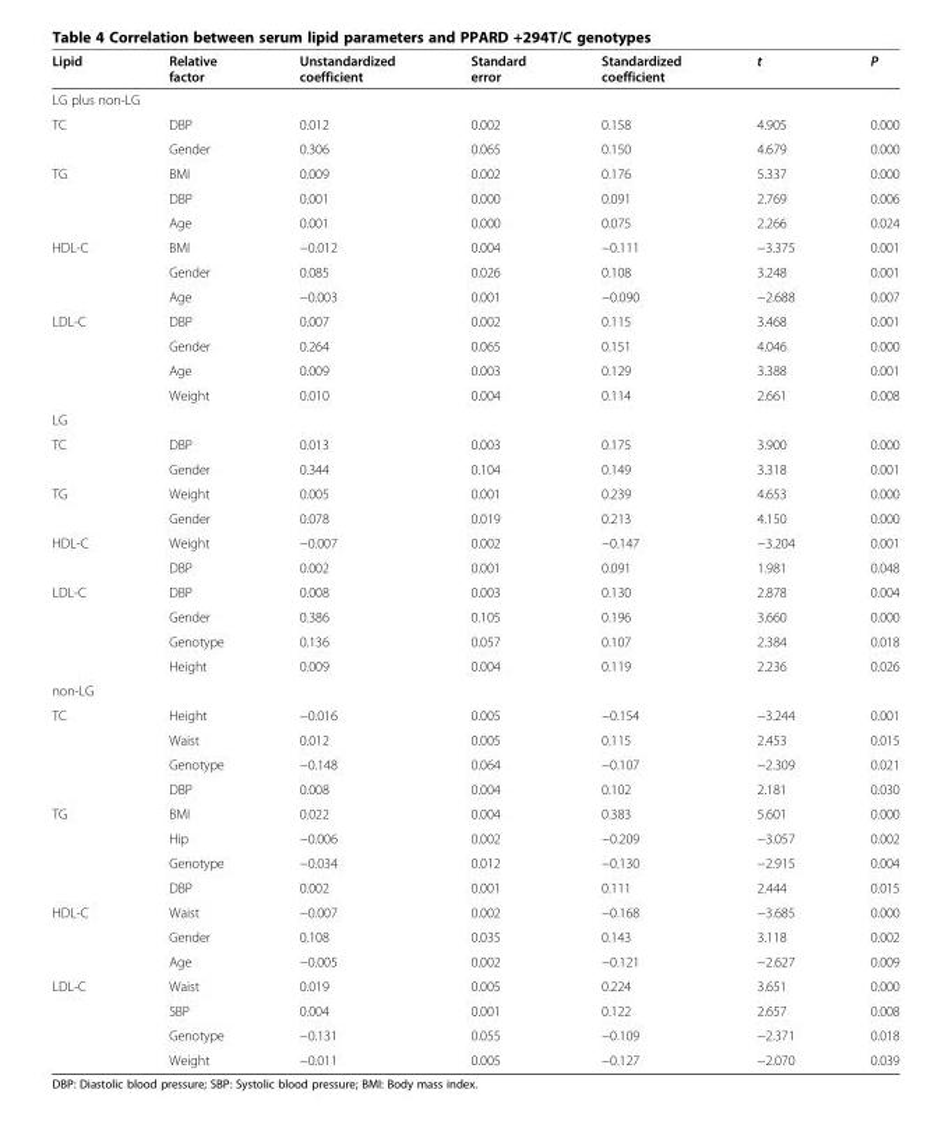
<table><thead><tr><td>Lipid</td><td>Relative factor</td><td>Unstandardized coefficient</td><td>Standard error</td><td>Standardized coefficient</td><td>t</td><td>P</td></tr></thead><tbody><tr><td colspan="7">LG plus non-LG</td></tr><tr><td rowspan="2">TC</td><td>DBP</td><td>0.012</td><td>0.002</td><td>0.158</td><td>4.905</td><td>0.000</td></tr><tr><td>Gender</td><td>0.306</td><td>0.065</td><td>0.150</td><td>4.679</td><td>0.000</td></tr><tr><td rowspan="3">TG</td><td>BMI</td><td>0.009</td><td>0.002</td><td>0.176</td><td>5.337</td><td>0.000</td></tr><tr><td>DBP</td><td>0.001</td><td>0.000</td><td>0.091</td><td>2.769</td><td>0.006</td></tr><tr><td>Age</td><td>0.001</td><td>0.000</td><td>0.075</td><td>2.266</td><td>0.024</td></tr><tr><td rowspan="3">HDL-C</td><td>BMI</td><td>−0.012</td><td>0.004</td><td>−0.111</td><td>−3.375</td><td>0.001</td></tr><tr><td>Gender</td><td>0.085</td><td>0.026</td><td>0.108</td><td>3.248</td><td>0.001</td></tr><tr><td>Age</td><td>−0.003</td><td>0.001</td><td>−0.090</td><td>−2.688</td><td>0.007</td></tr><tr><td rowspan="4">LDL-C</td><td>DBP</td><td>0.007</td><td>0.002</td><td>0.115</td><td>3.468</td><td>0.001</td></tr><tr><td>Gender</td><td>0.264</td><td>0.065</td><td>0.151</td><td>4.046</td><td>0.000</td></tr><tr><td>Age</td><td>0.009</td><td>0.003</td><td>0.129</td><td>3.388</td><td>0.001</td></tr><tr><td>Weight</td><td>0.010</td><td>0.004</td><td>0.114</td><td>2.661</td><td>0.008</td></tr><tr><td colspan="7">LG</td></tr><tr><td rowspan="2">TC</td><td>DBP</td><td>0.013</td><td>0.003</td><td>0.175</td><td>3.900</td><td>0.000</td></tr><tr><td>Gender</td><td>0.344</td><td>0.104</td><td>0.149</td><td>3.318</td><td>0.001</td></tr><tr><td rowspan="2">TG</td><td>Weight</td><td>0.005</td><td>0.001</td><td>0.239</td><td>4.653</td><td>0.000</td></tr><tr><td>Gender</td><td>0.078</td><td>0.019</td><td>0.213</td><td>4.150</td><td>0.000</td></tr><tr><td rowspan="2">HDL-C</td><td>Weight</td><td>−0.007</td><td>0.002</td><td>−0.147</td><td>−3.204</td><td>0.001</td></tr><tr><td>DBP</td><td>0.002</td><td>0.001</td><td>0.091</td><td>1.981</td><td>0.048</td></tr><tr><td rowspan="4">LDL-C</td><td>DBP</td><td>0.008</td><td>0.003</td><td>0.130</td><td>2.878</td><td>0.004</td></tr><tr><td>Gender</td><td>0.386</td><td>0.105</td><td>0.196</td><td>3.660</td><td>0.000</td></tr><tr><td>Genotype</td><td>0.136</td><td>0.057</td><td>0.107</td><td>2.384</td><td>0.018</td></tr><tr><td>Height</td><td>0.009</td><td>0.004</td><td>0.119</td><td>2.236</td><td>0.026</td></tr><tr><td colspan="7">non-LG</td></tr><tr><td rowspan="4">TC</td><td>Height</td><td>−0.016</td><td>0.005</td><td>−0.154</td><td>−3.244</td><td>0.001</td></tr><tr><td>Waist</td><td>0.012</td><td>0.005</td><td>0.115</td><td>2.453</td><td>0.015</td></tr><tr><td>Genotype</td><td>−0.148</td><td>0.064</td><td>−0.107</td><td>−2.309</td><td>0.021</td></tr><tr><td>DBP</td><td>0.008</td><td>0.004</td><td>0.102</td><td>2.181</td><td>0.030</td></tr><tr><td rowspan="4">TG</td><td>BMI</td><td>0.022</td><td>0.004</td><td>0.383</td><td>5.601</td><td>0.000</td></tr><tr><td>Hip</td><td>−0.006</td><td>0.002</td><td>−0.209</td><td>−3.057</td><td>0.002</td></tr><tr><td>Genotype</td><td>−0.034</td><td>0.012</td><td>−0.130</td><td>−2.915</td><td>0.004</td></tr><tr><td>DBP</td><td>0.002</td><td>0.001</td><td>0.111</td><td>2.444</td><td>0.015</td></tr><tr><td rowspan="3">HDL-C</td><td>Waist</td><td>−0.007</td><td>0.002</td><td>−0.168</td><td>−3.685</td><td>0.000</td></tr><tr><td>Gender</td><td>0.108</td><td>0.035</td><td>0.143</td><td>3.118</td><td>0.002</td></tr><tr><td>Age</td><td>−0.005</td><td>0.002</td><td>−0.121</td><td>−2.627</td><td>0.009</td></tr><tr><td rowspan="4">LDL-C</td><td>Waist</td><td>0.019</td><td>0.005</td><td>0.224</td><td>3.651</td><td>0.000</td></tr><tr><td>SBP</td><td>0.004</td><td>0.001</td><td>0.122</td><td>2.657</td><td>0.008</td></tr><tr><td>Genotype</td><td>−0.131</td><td>0.055</td><td>−0.109</td><td>−2.371</td><td>0.018</td></tr><tr><td>Weight</td><td>−0.011</td><td>0.005</td><td>−0.127</td><td>−2.070</td><td>0.039</td></tr></tbody></table>